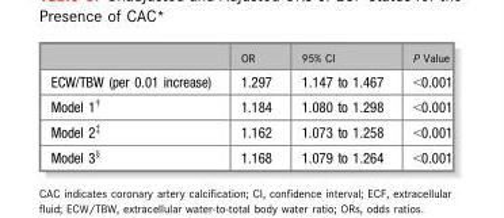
<table><thead><tr><td></td><td>OR</td><td>95% CI</td><td>P Value</td></tr></thead><tbody><tr><td>ECW/TBW (per 0.01 increase)</td><td>1.297</td><td>1.147 to 1.467</td><td>&lt;0.001</td></tr><tr><td>Model 1†</td><td>1.184</td><td>1.080 to 1.298</td><td>&lt;0.001</td></tr><tr><td>Model 2‡</td><td>1.162</td><td>1.073 to 1.258</td><td>&lt;0.001</td></tr><tr><td>Model 3§</td><td>1.168</td><td>1.079 to 1.264</td><td>&lt;0.001</td></tr></tbody></table>